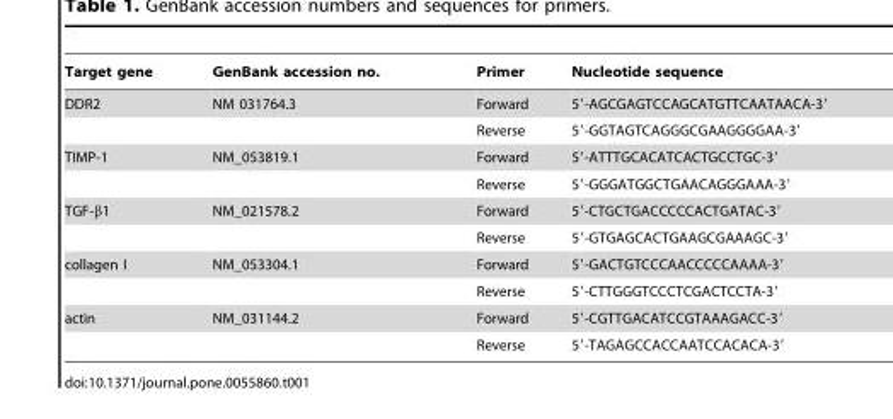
<table><thead><tr><td>Target gene</td><td>GenBank accession no.</td><td>Primer</td><td>Nucleotide sequence</td></tr></thead><tbody><tr><td rowspan="2">DDR2</td><td>NM 031764.3</td><td>Forward</td><td>5′-AGCGAGTCCAGCATGTTCAATAACA-3′</td></tr><tr><td></td><td>Reverse</td><td>5′-GGTAGTCAGGGCGAAGGGGAA-3′</td></tr><tr><td rowspan="2">TIMP-1</td><td>NM_053819.1</td><td>Forward</td><td>5′-ATTTGCACATCACTGCCTGC-3′</td></tr><tr><td></td><td>Reverse</td><td>5′-GGGATGGCTGAACAGGGAAA-3′</td></tr><tr><td rowspan="2">TGF-β1</td><td>NM_021578.2</td><td>Forward</td><td>5′-CTGCTGACCCCCACTGATAC-3′</td></tr><tr><td></td><td>Reverse</td><td>5′-GTGAGCACTGAAGCGAAAGC-3′</td></tr><tr><td rowspan="2">collagen I</td><td>NM_053304.1</td><td>Forward</td><td>5′-GACTGTCCCAACCCCCAAAA-3′</td></tr><tr><td></td><td>Reverse</td><td>5′-CTTGGGTCCCTCGACTCCTA-3′</td></tr><tr><td rowspan="2">actin</td><td>NM_031144.2</td><td>Forward</td><td>5′-CGTTGACATCCGTAAAGACC-3′</td></tr><tr><td></td><td>Reverse</td><td>5′-TAGAGCCACCAATCCACACA-3′</td></tr></tbody></table>